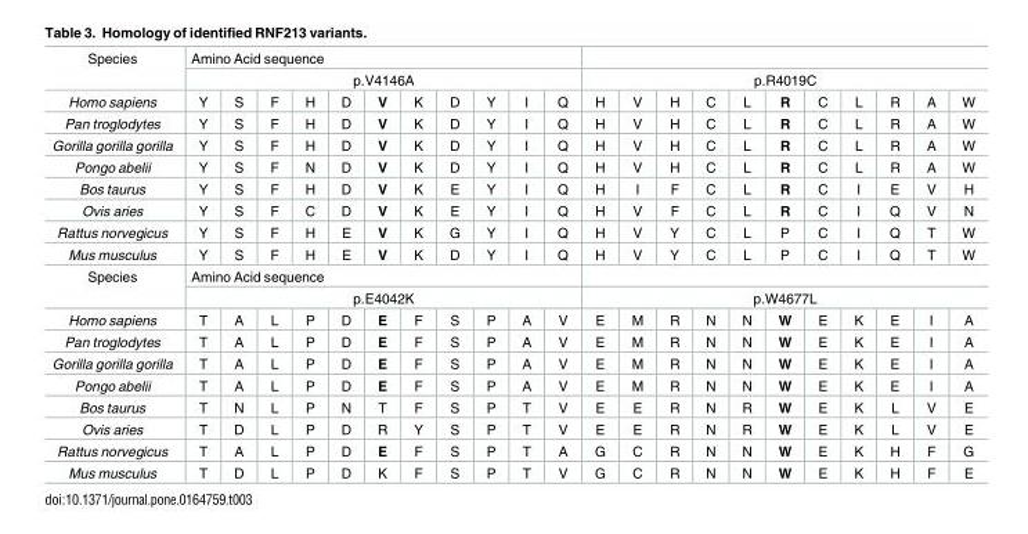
<table><tbody><tr><td rowspan="2">Species</td><td colspan="11">Amino Acid sequence</td><td colspan="11"></td></tr><tr><td colspan="11">p.V4146A</td><td colspan="11">p.R4019C</td></tr><tr><td>Homo sapiens</td><td>Y</td><td>S</td><td>F</td><td>H</td><td>D</td><td>V</td><td>K</td><td>D</td><td>Y</td><td>I</td><td>Q</td><td>H</td><td>V</td><td>H</td><td>C</td><td>L</td><td>R</td><td>C</td><td>L</td><td>R</td><td>A</td><td>W</td></tr><tr><td>Pan troglodytes</td><td>Y</td><td>S</td><td>F</td><td>H</td><td>D</td><td>V</td><td>K</td><td>D</td><td>Y</td><td>I</td><td>Q</td><td>H</td><td>V</td><td>H</td><td>C</td><td>L</td><td>R</td><td>C</td><td>L</td><td>R</td><td>A</td><td>W</td></tr><tr><td>Gorilla gorilla gorilla</td><td>Y</td><td>S</td><td>F</td><td>H</td><td>D</td><td>V</td><td>K</td><td>D</td><td>Y</td><td>I</td><td>Q</td><td>H</td><td>V</td><td>H</td><td>C</td><td>L</td><td>R</td><td>C</td><td>L</td><td>R</td><td>A</td><td>W</td></tr><tr><td>Pongo abelii</td><td>Y</td><td>S</td><td>F</td><td>N</td><td>D</td><td>V</td><td>K</td><td>D</td><td>Y</td><td>I</td><td>Q</td><td>H</td><td>V</td><td>H</td><td>C</td><td>L</td><td>R</td><td>C</td><td>L</td><td>R</td><td>A</td><td>W</td></tr><tr><td>Bos taurus</td><td>Y</td><td>S</td><td>F</td><td>H</td><td>D</td><td>V</td><td>K</td><td>E</td><td>Y</td><td>I</td><td>Q</td><td>H</td><td>I</td><td>F</td><td>C</td><td>L</td><td>R</td><td>C</td><td>I</td><td>E</td><td>V</td><td>H</td></tr><tr><td>Ovis aries</td><td>Y</td><td>S</td><td>F</td><td>C</td><td>D</td><td>V</td><td>K</td><td>E</td><td>Y</td><td>I</td><td>Q</td><td>H</td><td>V</td><td>F</td><td>C</td><td>L</td><td>R</td><td>C</td><td>I</td><td>Q</td><td>V</td><td>N</td></tr><tr><td>Rattus norvegicus</td><td>Y</td><td>S</td><td>F</td><td>H</td><td>E</td><td>V</td><td>K</td><td>G</td><td>Y</td><td>I</td><td>Q</td><td>H</td><td>V</td><td>Y</td><td>C</td><td>L</td><td>P</td><td>C</td><td>I</td><td>Q</td><td>T</td><td>W</td></tr><tr><td>Mus musculus</td><td>Y</td><td>S</td><td>F</td><td>H</td><td>E</td><td>V</td><td>K</td><td>D</td><td>Y</td><td>I</td><td>Q</td><td>H</td><td>V</td><td>Y</td><td>C</td><td>L</td><td>P</td><td>C</td><td>I</td><td>Q</td><td>T</td><td>W</td></tr><tr><td rowspan="2">Species</td><td colspan="11">Amino Acid sequence</td><td colspan="11"></td></tr><tr><td colspan="11">p.E4042K</td><td colspan="11">p.W4677L</td></tr><tr><td>Homo sapiens</td><td>T</td><td>A</td><td>L</td><td>P</td><td>D</td><td>E</td><td>F</td><td>S</td><td>P</td><td>A</td><td>V</td><td>E</td><td>M</td><td>R</td><td>N</td><td>N</td><td>W</td><td>E</td><td>K</td><td>E</td><td>I</td><td>A</td></tr><tr><td>Pan troglodytes</td><td>T</td><td>A</td><td>L</td><td>P</td><td>D</td><td>E</td><td>F</td><td>S</td><td>P</td><td>A</td><td>V</td><td>E</td><td>M</td><td>R</td><td>N</td><td>N</td><td>W</td><td>E</td><td>K</td><td>E</td><td>I</td><td>A</td></tr><tr><td>Gorilla gorilla gorilla</td><td>T</td><td>A</td><td>L</td><td>P</td><td>D</td><td>E</td><td>F</td><td>S</td><td>P</td><td>A</td><td>V</td><td>E</td><td>M</td><td>R</td><td>N</td><td>N</td><td>W</td><td>E</td><td>K</td><td>E</td><td>I</td><td>A</td></tr><tr><td>Pongo abelii</td><td>T</td><td>A</td><td>L</td><td>P</td><td>D</td><td>E</td><td>F</td><td>S</td><td>P</td><td>A</td><td>V</td><td>E</td><td>M</td><td>R</td><td>N</td><td>N</td><td>W</td><td>E</td><td>K</td><td>E</td><td>I</td><td>A</td></tr><tr><td>Bos taurus</td><td>T</td><td>N</td><td>L</td><td>P</td><td>N</td><td>T</td><td>F</td><td>S</td><td>P</td><td>T</td><td>V</td><td>E</td><td>E</td><td>R</td><td>N</td><td>R</td><td>W</td><td>E</td><td>K</td><td>L</td><td>V</td><td>E</td></tr><tr><td>Ovis aries</td><td>T</td><td>D</td><td>L</td><td>P</td><td>D</td><td>R</td><td>Y</td><td>S</td><td>P</td><td>T</td><td>V</td><td>E</td><td>E</td><td>R</td><td>N</td><td>R</td><td>W</td><td>E</td><td>K</td><td>L</td><td>V</td><td>E</td></tr><tr><td>Rattus norvegicus</td><td>T</td><td>A</td><td>L</td><td>P</td><td>D</td><td>E</td><td>F</td><td>S</td><td>P</td><td>T</td><td>A</td><td>G</td><td>C</td><td>R</td><td>N</td><td>N</td><td>W</td><td>E</td><td>K</td><td>H</td><td>F</td><td>G</td></tr><tr><td>Mus musculus</td><td>T</td><td>D</td><td>L</td><td>P</td><td>D</td><td>K</td><td>F</td><td>S</td><td>P</td><td>T</td><td>V</td><td>G</td><td>C</td><td>R</td><td>N</td><td>N</td><td>W</td><td>E</td><td>K</td><td>H</td><td>F</td><td>E</td></tr></tbody></table>